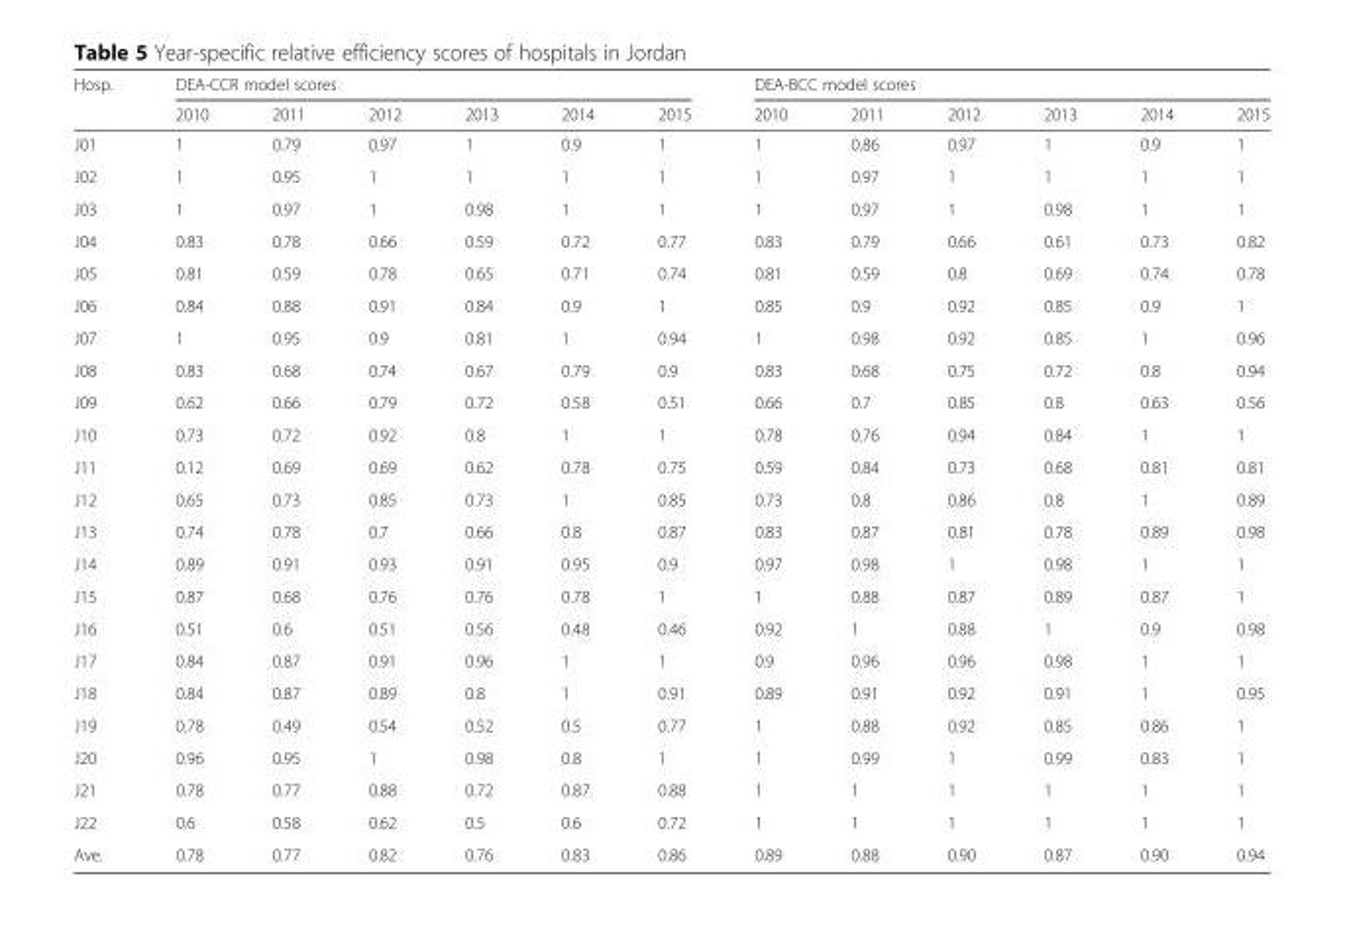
<table><thead><tr><td rowspan="2">Hosp.</td><td colspan="6">DEA-CCR model scores</td><td colspan="6">DEA-BCC model scores</td></tr><tr><td>2010</td><td>2011</td><td>2012</td><td>2013</td><td>2014</td><td>2015</td><td>2010</td><td>2011</td><td>2012</td><td>2013</td><td>2014</td><td>2015</td></tr></thead><tbody><tr><td>J01</td><td>1</td><td>0.79</td><td>0.97</td><td>1</td><td>0.9</td><td>1</td><td>1</td><td>0.86</td><td>0.97</td><td>1</td><td>0.9</td><td>1</td></tr><tr><td>J02</td><td>1</td><td>0.95</td><td>1</td><td>1</td><td>1</td><td>1</td><td>1</td><td>0.97</td><td>1</td><td>1</td><td>1</td><td>1</td></tr><tr><td>J03</td><td>1</td><td>0.97</td><td>1</td><td>0.98</td><td>1</td><td>1</td><td>1</td><td>0.97</td><td>1</td><td>0.98</td><td>1</td><td>1</td></tr><tr><td>J04</td><td>0.83</td><td>0.78</td><td>0.66</td><td>0.59</td><td>0.72</td><td>0.77</td><td>0.83</td><td>0.79</td><td>0.66</td><td>0.61</td><td>0.73</td><td>0.82</td></tr><tr><td>J05</td><td>0.81</td><td>0.59</td><td>0.78</td><td>0.65</td><td>0.71</td><td>0.74</td><td>0.81</td><td>0.59</td><td>0.8</td><td>0.69</td><td>0.74</td><td>0.78</td></tr><tr><td>J06</td><td>0.84</td><td>0.88</td><td>0.91</td><td>0.84</td><td>0.9</td><td>1</td><td>0.85</td><td>0.9</td><td>0.92</td><td>0.85</td><td>0.9</td><td>1</td></tr><tr><td>J07</td><td>1</td><td>0.95</td><td>0.9</td><td>0.81</td><td>1</td><td>0.94</td><td>1</td><td>0.98</td><td>0.92</td><td>0.85</td><td>1</td><td>0.96</td></tr><tr><td>J08</td><td>0.83</td><td>0.68</td><td>0.74</td><td>0.67</td><td>0.79</td><td>0.9</td><td>0.83</td><td>0.68</td><td>0.75</td><td>0.72</td><td>0.8</td><td>0.94</td></tr><tr><td>J09</td><td>0.62</td><td>0.66</td><td>0.79</td><td>0.72</td><td>0.58</td><td>0.51</td><td>0.66</td><td>0.7</td><td>0.85</td><td>0.8</td><td>0.63</td><td>0.56</td></tr><tr><td>J10</td><td>0.73</td><td>0.72</td><td>0.92</td><td>0.8</td><td>1</td><td>1</td><td>0.78</td><td>0.76</td><td>0.94</td><td>0.84</td><td>1</td><td>1</td></tr><tr><td>J11</td><td>0.12</td><td>0.69</td><td>0.69</td><td>0.62</td><td>0.78</td><td>0.75</td><td>0.59</td><td>0.84</td><td>0.73</td><td>0.68</td><td>0.81</td><td>0.81</td></tr><tr><td>J12</td><td>0.65</td><td>0.73</td><td>0.85</td><td>0.73</td><td>1</td><td>0.85</td><td>0.73</td><td>0.8</td><td>0.86</td><td>0.8</td><td>1</td><td>0.89</td></tr><tr><td>J13</td><td>0.74</td><td>0.78</td><td>0.7</td><td>0.66</td><td>0.8</td><td>0.87</td><td>0.83</td><td>0.87</td><td>0.81</td><td>0.78</td><td>0.89</td><td>0.98</td></tr><tr><td>J14</td><td>0.89</td><td>0.91</td><td>0.93</td><td>0.91</td><td>0.95</td><td>0.9</td><td>0.97</td><td>0.98</td><td>1</td><td>0.98</td><td>1</td><td>1</td></tr><tr><td>J15</td><td>0.87</td><td>0.68</td><td>0.76</td><td>0.76</td><td>0.78</td><td>1</td><td>1</td><td>0.88</td><td>0.87</td><td>0.89</td><td>0.87</td><td>1</td></tr><tr><td>J16</td><td>0.51</td><td>0.6</td><td>0.51</td><td>0.56</td><td>0.48</td><td>0.46</td><td>0.92</td><td>1</td><td>0.88</td><td>1</td><td>0.9</td><td>0.98</td></tr><tr><td>J17</td><td>0.84</td><td>0.87</td><td>0.91</td><td>0.96</td><td>1</td><td>1</td><td>0.9</td><td>0.96</td><td>0.96</td><td>0.98</td><td>1</td><td>1</td></tr><tr><td>J18</td><td>0.84</td><td>0.87</td><td>0.89</td><td>0.8</td><td>1</td><td>0.91</td><td>0.89</td><td>0.91</td><td>0.92</td><td>0.91</td><td>1</td><td>0.95</td></tr><tr><td>J19</td><td>0.78</td><td>0.49</td><td>0.54</td><td>0.52</td><td>0.5</td><td>0.77</td><td>1</td><td>0.88</td><td>0.92</td><td>0.85</td><td>0.86</td><td>1</td></tr><tr><td>J20</td><td>0.96</td><td>0.95</td><td>1</td><td>0.98</td><td>0.8</td><td>1</td><td>1</td><td>0.99</td><td>1</td><td>0.99</td><td>0.83</td><td>1</td></tr><tr><td>J21</td><td>0.78</td><td>0.77</td><td>0.88</td><td>0.72</td><td>0.87</td><td>0.88</td><td>1</td><td>1</td><td>1</td><td>1</td><td>1</td><td>1</td></tr><tr><td>J22</td><td>0.6</td><td>0.58</td><td>0.62</td><td>0.5</td><td>0.6</td><td>0.72</td><td>1</td><td>1</td><td>1</td><td>1</td><td>1</td><td>1</td></tr><tr><td>Ave.</td><td>0.78</td><td>0.77</td><td>0.82</td><td>0.76</td><td>0.83</td><td>0.86</td><td>0.89</td><td>0.88</td><td>0.90</td><td>0.87</td><td>0.90</td><td>0.94</td></tr></tbody></table>